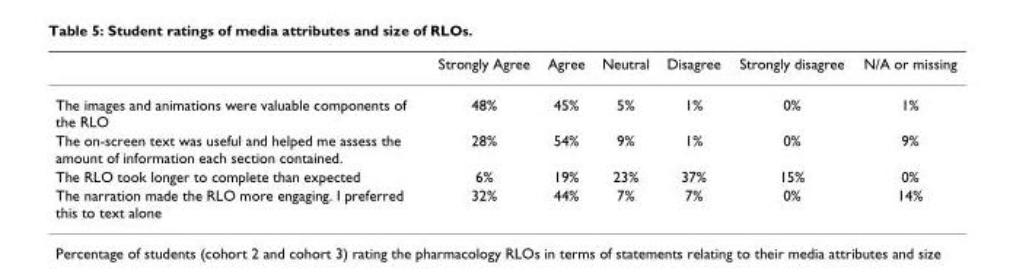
<table><thead><tr><td></td><td>Strongly Agree</td><td>Agree</td><td>Neutral</td><td>Disagree</td><td>Strongly disagree</td><td>N/A or missing</td></tr></thead><tbody><tr><td>The images and animations were valuable components of the RLO</td><td>48%</td><td>45%</td><td>5%</td><td>1%</td><td>0%</td><td>1%</td></tr><tr><td>The on-screen text was useful and helped me assess the amount of information each section contained.</td><td>28%</td><td>54%</td><td>9%</td><td>1%</td><td>0%</td><td>9%</td></tr><tr><td>The RLO took longer to complete than expected</td><td>6%</td><td>19%</td><td>23%</td><td>37%</td><td>15%</td><td>0%</td></tr><tr><td>The narration made the RLO more engaging. I preferred this to text alone</td><td>32%</td><td>44%</td><td>7%</td><td>7%</td><td>0%</td><td>14%</td></tr></tbody></table>